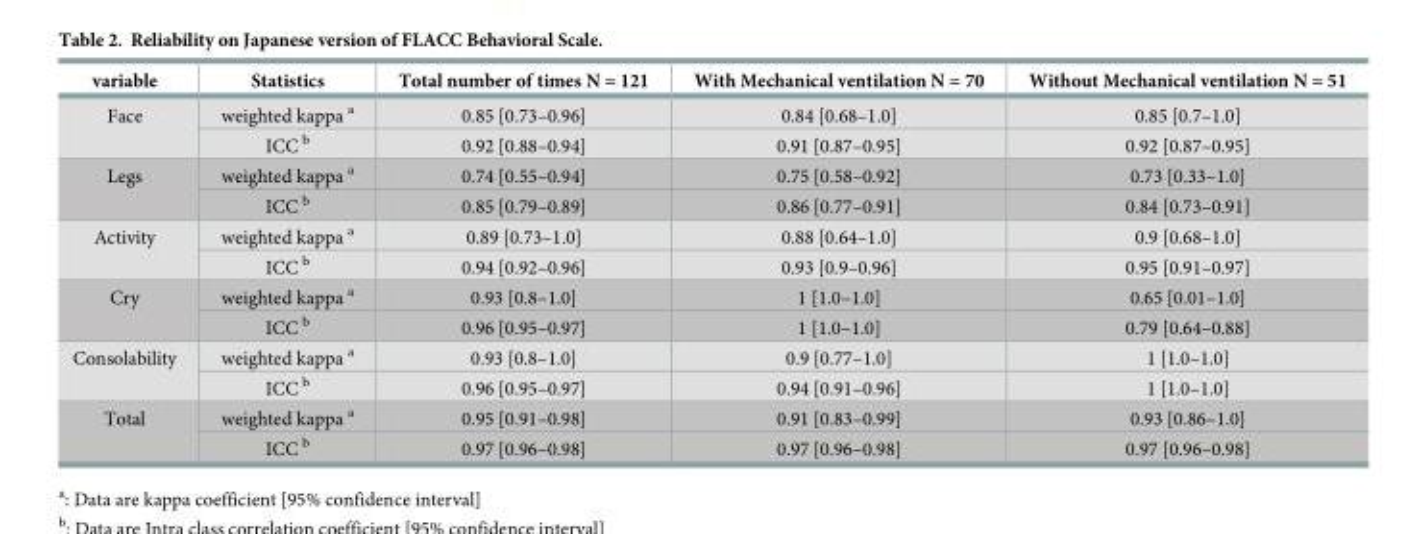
<table><thead><tr><td>variable</td><td>Statistics</td><td>Total number of times N = 121</td><td>With Mechanical ventilation N = 70</td><td>Without Mechanical ventilation N = 51</td></tr></thead><tbody><tr><td rowspan="2">Face</td><td>weighted kappa <sup>a</sup></td><td>0.85 [0.73–0.96]</td><td>0.84 [0.68–1.0]</td><td>0.85 [0.7–1.0]</td></tr><tr><td>ICC <sup>b</sup></td><td>0.92 [0.88–0.94]</td><td>0.91 [0.87–0.95]</td><td>0.92 [0.87–0.95]</td></tr><tr><td rowspan="2">Legs</td><td>weighted kappa <sup>a</sup></td><td>0.74 [0.55–0.94]</td><td>0.75 [0.58–0.92]</td><td>0.73 [0.33–1.0]</td></tr><tr><td>ICC <sup>b</sup></td><td>0.85 [0.79–0.89]</td><td>0.86 [0.77–0.91]</td><td>0.84 [0.73–0.91]</td></tr><tr><td rowspan="2">Activity</td><td>weighted kappa <sup>a</sup></td><td>0.89 [0.73–1.0]</td><td>0.88 [0.64–1.0]</td><td>0.9 [0.68–1.0]</td></tr><tr><td>ICC <sup>b</sup></td><td>0.94 [0.92–0.96]</td><td>0.93 [0.9–0.96]</td><td>0.95 [0.91–0.97]</td></tr><tr><td rowspan="2">Cry</td><td>weighted kappa <sup>a</sup></td><td>0.93 [0.8–1.0]</td><td>1 [1.0–1.0]</td><td>0.65 [0.01–1.0]</td></tr><tr><td>ICC <sup>b</sup></td><td>0.96 [0.95–0.97]</td><td>1 [1.0–1.0]</td><td>0.79 [0.64–0.88]</td></tr><tr><td rowspan="2">Consolability</td><td>weighted kappa <sup>a</sup></td><td>0.93 [0.8–1.0]</td><td>0.9 [0.77–1.0]</td><td>1 [1.0–1.0]</td></tr><tr><td>ICC <sup>b</sup></td><td>0.96 [0.95–0.97]</td><td>0.94 [0.91–0.96]</td><td>1 [1.0–1.0]</td></tr><tr><td rowspan="2">Total</td><td>weighted kappa <sup>a</sup></td><td>0.95 [0.91–0.98]</td><td>0.91 [0.83–0.99]</td><td>0.93 [0.86–1.0]</td></tr><tr><td>ICC <sup>b</sup></td><td>0.97 [0.96–0.98]</td><td>0.97 [0.96–0.98]</td><td>0.97 [0.96–0.98]</td></tr></tbody></table>